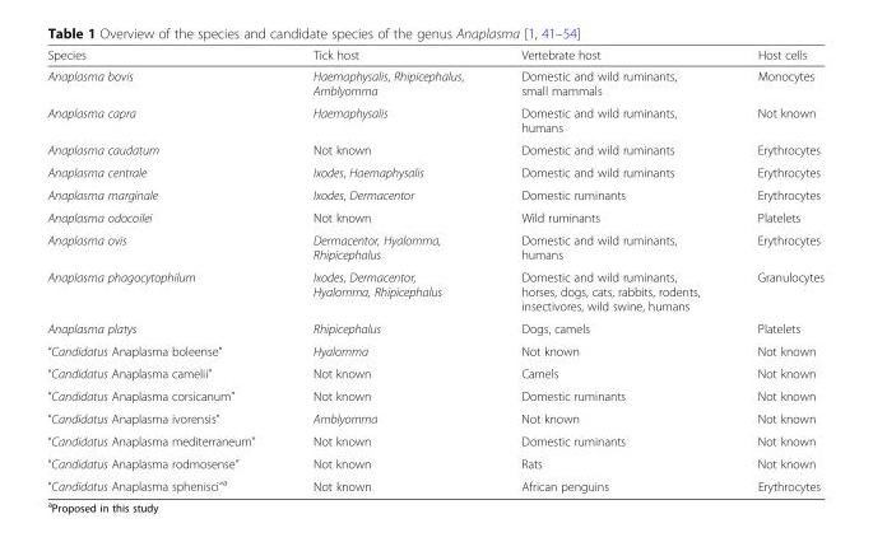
<table><thead><tr><td>Species</td><td>Tick host</td><td>Vertebrate host</td><td>Host cells</td></tr></thead><tbody><tr><td>Anaplasma bovis</td><td>Haemaphysalis, Rhipicephalus, Amblyomma</td><td>Domestic and wild ruminants, small mammals</td><td>Monocytes</td></tr><tr><td>Anaplasma capra</td><td>Haemaphysalis</td><td>Domestic and wild ruminants, humans</td><td>Not known</td></tr><tr><td>Anaplasma caudatum</td><td>Not known</td><td>Domestic and wild ruminants</td><td>Erythrocytes</td></tr><tr><td>Anaplasma centrale</td><td>Ixodes, Haemaphysalis</td><td>Domestic and wild ruminants</td><td>Erythrocytes</td></tr><tr><td>Anaplasma marginale</td><td>Ixodes, Dermacentor</td><td>Domestic ruminants</td><td>Erythrocytes</td></tr><tr><td>Anaplasma odocoilei</td><td>Not known</td><td>Wild ruminants</td><td>Platelets</td></tr><tr><td>Anaplasma ovis</td><td>Dermacentor, Hyalomma, Rhipicephalus</td><td>Domestic and wild ruminants, humans</td><td>Erythrocytes</td></tr><tr><td>Anaplasma phagocytophilum</td><td>Ixodes, Dermacentor, Hyalomma, Rhipicephalus</td><td>Domestic and wild ruminants, horses, dogs, cats, rabbits, rodents, insectivores, wild swine, humans</td><td>Granulocytes</td></tr><tr><td>Anaplasma platys</td><td>Rhipicephalus</td><td>Dogs, camels</td><td>Platelets</td></tr><tr><td>“Candidatus Anaplasma boleense”</td><td>Hyalomma</td><td>Not known</td><td>Not known</td></tr><tr><td>“Candidatus Anaplasma camelii”</td><td>Not known</td><td>Camels</td><td>Not known</td></tr><tr><td>“Candidatus Anaplasma corsicanum”</td><td>Not known</td><td>Domestic ruminants</td><td>Not known</td></tr><tr><td>“Candidatus Anaplasma ivorensis”</td><td>Amblyomma</td><td>Not known</td><td>Not known</td></tr><tr><td>“Candidatus Anaplasma mediterraneum”</td><td>Not known</td><td>Domestic ruminants</td><td>Not known</td></tr><tr><td>“Candidatus Anaplasma rodmosense”</td><td>Not known</td><td>Rats</td><td>Not known</td></tr><tr><td>“Candidatus Anaplasma sphenisci”<sup>a</sup></td><td>Not known</td><td>African penguins</td><td>Erythrocytes</td></tr></tbody></table>